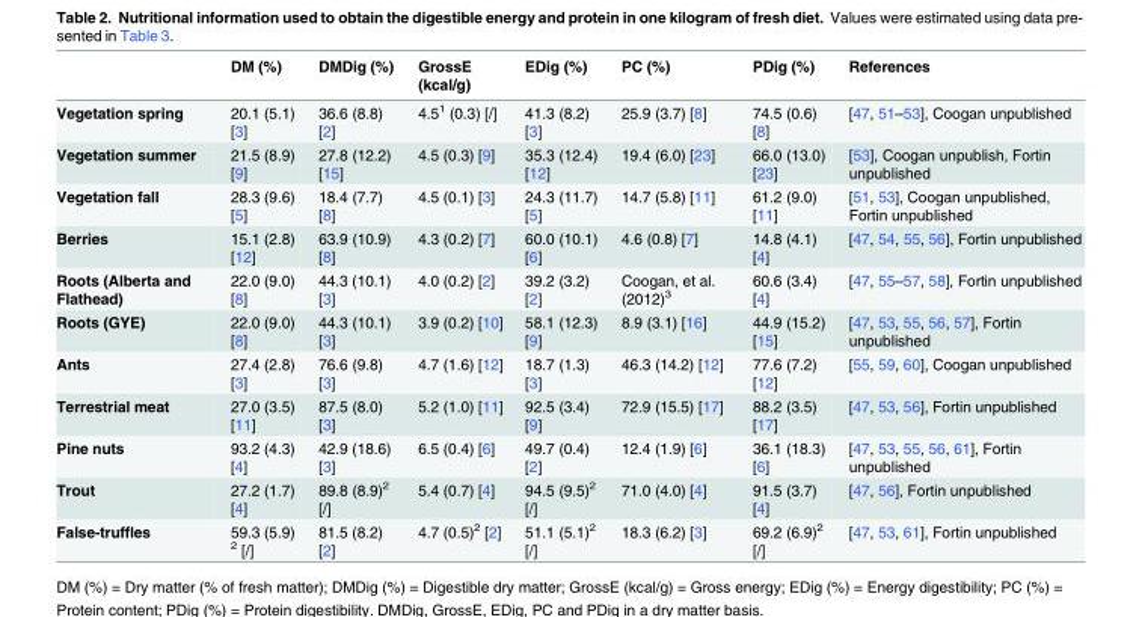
<table><thead><tr><td></td><td>DM (%)</td><td>DMDig (%)</td><td>GrossE (kcal/g)</td><td>EDig (%)</td><td>PC (%)</td><td>PDig (%)</td><td>References</td></tr></thead><tbody><tr><td>Vegetation spring</td><td>20.1 (5.1) [3]</td><td>36.6 (8.8) [2]</td><td>4.5<sup>1</sup> (0.3) [/]</td><td>41.3 (8.2) [3]</td><td>25.9 (3.7) [8]</td><td>74.5 (0.6) [8]</td><td>[47, 51–53], Coogan unpublished</td></tr><tr><td>Vegetation summer</td><td>21.5 (8.9) [9]</td><td>27.8 (12.2) [15]</td><td>4.5 (0.3) [9]</td><td>35.3 (12.4) [12]</td><td>19.4 (6.0) [23]</td><td>66.0 (13.0) [23]</td><td>[53], Coogan unpublish, Fortin unpublished</td></tr><tr><td>Vegetation fall</td><td>28.3 (9.6) [5]</td><td>18.4 (7.7) [8]</td><td>4.5 (0.1) [3]</td><td>24.3 (11.7) [5]</td><td>14.7 (5.8) [11]</td><td>61.2 (9.0) [11]</td><td>[51, 53], Coogan unpublished, Fortin unpublished</td></tr><tr><td>Berries</td><td>15.1 (2.8) [12]</td><td>63.9 (10.9) [8]</td><td>4.3 (0.2) [7]</td><td>60.0 (10.1) [6]</td><td>4.6 (0.8) [7]</td><td>14.8 (4.1) [4]</td><td>[47, 54, 55, 56], Fortin unpublished</td></tr><tr><td>Roots (Alberta and Flathead)</td><td>22.0 (9.0) [8]</td><td>44.3 (10.1) [3]</td><td>4.0 (0.2) [2]</td><td>39.2 (3.2) [2]</td><td>Coogan, et al. (2012)<sup>3</sup></td><td>60.6 (3.4) [4]</td><td>[47, 55–57, 58], Fortin unpublished</td></tr><tr><td>Roots (GYE)</td><td>22.0 (9.0) [8]</td><td>44.3 (10.1) [3]</td><td>3.9 (0.2) [10]</td><td>58.1 (12.3) [9]</td><td>8.9 (3.1) [16]</td><td>44.9 (15.2) [15]</td><td>[47, 53, 55, 56, 57], Fortin unpublished</td></tr><tr><td>Ants</td><td>27.4 (2.8) [3]</td><td>76.6 (9.8) [3]</td><td>4.7 (1.6) [12]</td><td>18.7 (1.3) [3]</td><td>46.3 (14.2) [12]</td><td>77.6 (7.2) [12]</td><td>[55, 59, 60], Coogan unpublished</td></tr><tr><td>Terrestrial meat</td><td>27.0 (3.5) [11]</td><td>87.5 (8.0) [3]</td><td>5.2 (1.0) [11]</td><td>92.5 (3.4) [9]</td><td>72.9 (15.5) [17]</td><td>88.2 (3.5) [17]</td><td>[47, 53, 56], Fortin unpublished</td></tr><tr><td>Pine nuts</td><td>93.2 (4.3) [4]</td><td>42.9 (18.6) [3]</td><td>6.5 (0.4) [6]</td><td>49.7 (0.4) [2]</td><td>12.4 (1.9) [6]</td><td>36.1 (18.3) [6]</td><td>[47, 53, 55, 56, 61], Fortin unpublished</td></tr><tr><td>Trout</td><td>27.2 (1.7) [4]</td><td>89.8 (8.9)<sup>2</sup> [/]</td><td>5.4 (0.7) [4]</td><td>94.5 (9.5)<sup>2</sup> [/]</td><td>71.0 (4.0) [4]</td><td>91.5 (3.7) [4]</td><td>[47, 56], Fortin unpublished</td></tr><tr><td>False-truffles</td><td>59.3 (5.9) <sup>2</sup> [/]</td><td>81.5 (8.2) [2]</td><td>4.7 (0.5)<sup>2</sup> [2]</td><td>51.1 (5.1)<sup>2</sup> [/]</td><td>18.3 (6.2) [3]</td><td>69.2 (6.9)<sup>2</sup> [/]</td><td>[47, 53, 61], Fortin unpublished</td></tr></tbody></table>